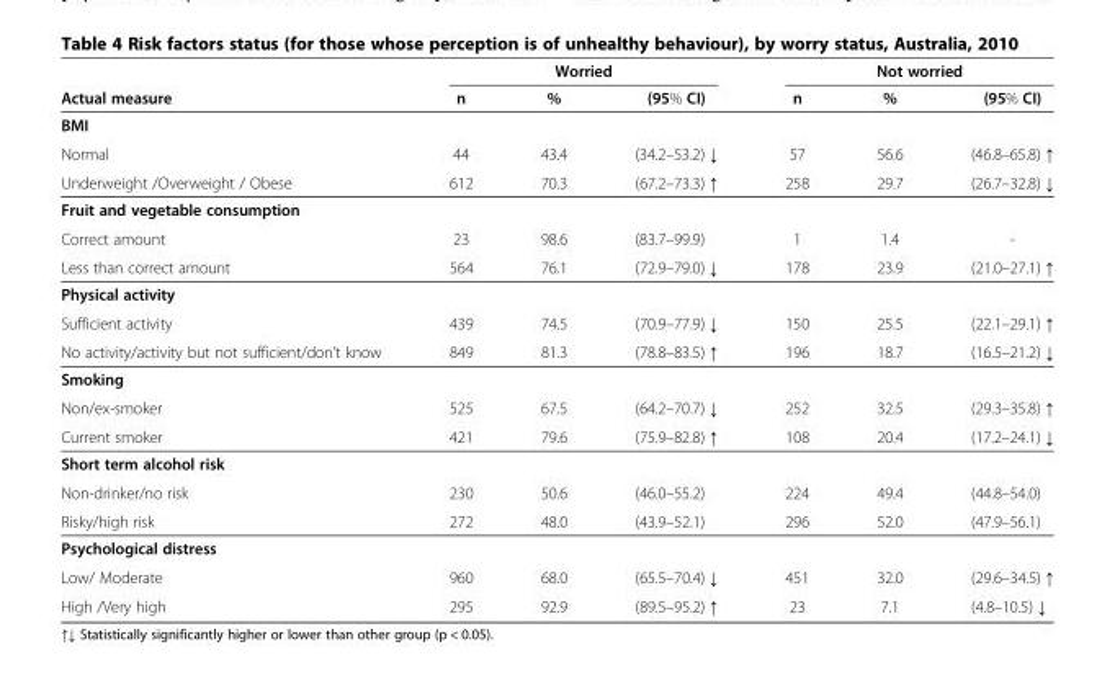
<table><thead><tr><td rowspan="2">Actual measure</td><td colspan="3">Worried</td><td colspan="3">Not worried</td></tr><tr><td>n</td><td>%</td><td>(95% CI)</td><td>n</td><td>%</td><td>(95% CI)</td></tr></thead><tbody><tr><td colspan="7">BMI</td></tr><tr><td>Normal</td><td>44</td><td>43.4</td><td>(34.2–53.2) ↓</td><td>57</td><td>56.6</td><td>(46.8–65.8) ↑</td></tr><tr><td>Underweight /Overweight / Obese</td><td>612</td><td>70.3</td><td>(67.2–73.3) ↑</td><td>258</td><td>29.7</td><td>(26.7–32.8) ↓</td></tr><tr><td colspan="7">Fruit and vegetable consumption</td></tr><tr><td>Correct amount</td><td>23</td><td>98.6</td><td>(83.7–99.9)</td><td>1</td><td>1.4</td><td>-</td></tr><tr><td>Less than correct amount</td><td>564</td><td>76.1</td><td>(72.9–79.0) ↓</td><td>178</td><td>23.9</td><td>(21.0–27.1) ↑</td></tr><tr><td colspan="7">Physical activity</td></tr><tr><td>Sufficient activity</td><td>439</td><td>74.5</td><td>(70.9–77.9) ↓</td><td>150</td><td>25.5</td><td>(22.1–29.1) ↑</td></tr><tr><td>No activity/activity but not sufficient/don’t know</td><td>849</td><td>81.3</td><td>(78.8–83.5) ↑</td><td>196</td><td>18.7</td><td>(16.5–21.2) ↓</td></tr><tr><td colspan="7">Smoking</td></tr><tr><td>Non/ex-smoker</td><td>525</td><td>67.5</td><td>(64.2–70.7) ↓</td><td>252</td><td>32.5</td><td>(29.3–35.8) ↑</td></tr><tr><td>Current smoker</td><td>421</td><td>79.6</td><td>(75.9–82.8) ↑</td><td>108</td><td>20.4</td><td>(17.2–24.1) ↓</td></tr><tr><td colspan="7">Short term alcohol risk</td></tr><tr><td>Non-drinker/no risk</td><td>230</td><td>50.6</td><td>(46.0–55.2)</td><td>224</td><td>49.4</td><td>(44.8–54.0)</td></tr><tr><td>Risky/high risk</td><td>272</td><td>48.0</td><td>(43.9–52.1)</td><td>296</td><td>52.0</td><td>(47.9–56.1)</td></tr><tr><td colspan="7">Psychological distress</td></tr><tr><td>Low/ Moderate</td><td>960</td><td>68.0</td><td>(65.5–70.4) ↓</td><td>451</td><td>32.0</td><td>(29.6–34.5) ↑</td></tr><tr><td>High /Very high</td><td>295</td><td>92.9</td><td>(89.5–95.2) ↑</td><td>23</td><td>7.1</td><td>(4.8–10.5) ↓</td></tr></tbody></table>